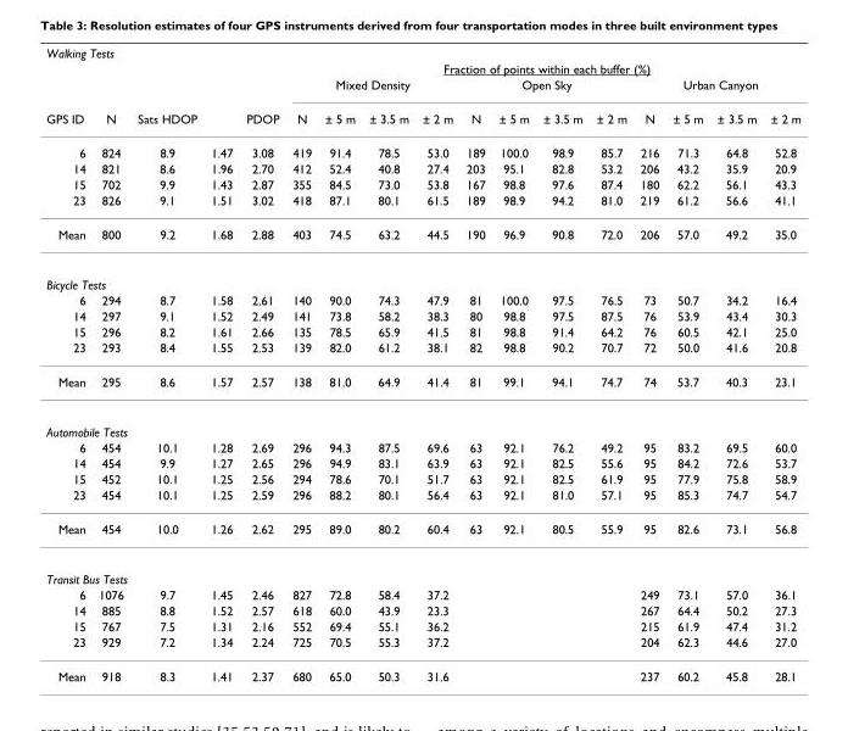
<table><thead><tr><td colspan="17">Walking Tests</td></tr><tr><td rowspan="3">GPS ID</td><td rowspan="3">N</td><td rowspan="3">Sats HDOP</td><td rowspan="3"></td><td rowspan="3">PDOP</td><td colspan="12">Fraction of points within each buffer (%)</td></tr><tr><td colspan="4">Mixed Density</td><td colspan="4">Open Sky</td><td colspan="4">Urban Canyon</td></tr><tr><td>N</td><td>± 5 m</td><td>± 3.5 m</td><td>± 2 m</td><td>N</td><td>± 5 m</td><td>± 3.5 m</td><td>± 2 m</td><td>N</td><td>± 5 m</td><td>± 3.5 m</td><td>± 2 m</td></tr></thead><tbody><tr><td>6</td><td>824</td><td>8.9</td><td>1.47</td><td>3.08</td><td>419</td><td>91.4</td><td>78.5</td><td>53.0</td><td>189</td><td>100.0</td><td>98.9</td><td>85.7</td><td>216</td><td>71.3</td><td>64.8</td><td>52.8</td></tr><tr><td>14</td><td>821</td><td>8.6</td><td>1.96</td><td>2.70</td><td>412</td><td>52.4</td><td>40.8</td><td>27.4</td><td>203</td><td>95.1</td><td>82.8</td><td>53.2</td><td>206</td><td>43.2</td><td>35.9</td><td>20.9</td></tr><tr><td>15</td><td>702</td><td>9.9</td><td>1.43</td><td>2.87</td><td>355</td><td>84.5</td><td>73.0</td><td>53.8</td><td>167</td><td>98.8</td><td>97.6</td><td>87.4</td><td>180</td><td>62.2</td><td>56.1</td><td>43.3</td></tr><tr><td>23</td><td>826</td><td>9.1</td><td>1.51</td><td>3.02</td><td>418</td><td>87.1</td><td>80.1</td><td>61.5</td><td>189</td><td>98.9</td><td>94.2</td><td>81.0</td><td>219</td><td>61.2</td><td>56.6</td><td>41.1</td></tr><tr><td>Mean</td><td>800</td><td>9.2</td><td>1.68</td><td>2.88</td><td>403</td><td>74.5</td><td>63.2</td><td>44.5</td><td>190</td><td>96.9</td><td>90.8</td><td>72.0</td><td>206</td><td>57.0</td><td>49.2</td><td>35.0</td></tr><tr><td colspan="17">Bicycle Tests</td></tr><tr><td>6</td><td>294</td><td>8.7</td><td>1.58</td><td>2.61</td><td>140</td><td>90.0</td><td>74.3</td><td>47.9</td><td>81</td><td>100.0</td><td>97.5</td><td>76.5</td><td>73</td><td>50.7</td><td>34.2</td><td>16.4</td></tr><tr><td>14</td><td>297</td><td>9.1</td><td>1.52</td><td>2.49</td><td>141</td><td>73.8</td><td>58.2</td><td>38.3</td><td>80</td><td>98.8</td><td>97.5</td><td>87.5</td><td>76</td><td>53.9</td><td>43.4</td><td>30.3</td></tr><tr><td>15</td><td>296</td><td>8.2</td><td>1.61</td><td>2.66</td><td>135</td><td>78.5</td><td>65.9</td><td>41.5</td><td>81</td><td>98.8</td><td>91.4</td><td>64.2</td><td>76</td><td>60.5</td><td>42.1</td><td>25.0</td></tr><tr><td>23</td><td>293</td><td>8.4</td><td>1.55</td><td>2.53</td><td>139</td><td>82.0</td><td>61.2</td><td>38.1</td><td>82</td><td>98.8</td><td>90.2</td><td>70.7</td><td>72</td><td>50.0</td><td>41.6</td><td>20.8</td></tr><tr><td>Mean</td><td>295</td><td>8.6</td><td>1.57</td><td>2.57</td><td>138</td><td>81.0</td><td>64.9</td><td>41.4</td><td>81</td><td>99.1</td><td>94.1</td><td>74.7</td><td>74</td><td>53.7</td><td>40.3</td><td>23.1</td></tr><tr><td colspan="17">Automobile Tests</td></tr><tr><td>6</td><td>454</td><td>10.1</td><td>1.28</td><td>2.69</td><td>296</td><td>94.3</td><td>87.5</td><td>69.6</td><td>63</td><td>92.1</td><td>76.2</td><td>49.2</td><td>95</td><td>83.2</td><td>69.5</td><td>60.0</td></tr><tr><td>14</td><td>454</td><td>9.9</td><td>1.27</td><td>2.65</td><td>296</td><td>94.9</td><td>83.1</td><td>63.9</td><td>63</td><td>92.1</td><td>82.5</td><td>55.6</td><td>95</td><td>84.2</td><td>72.6</td><td>53.7</td></tr><tr><td>15</td><td>452</td><td>10.1</td><td>1.25</td><td>2.56</td><td>294</td><td>78.6</td><td>70.1</td><td>51.7</td><td>63</td><td>92.1</td><td>82.5</td><td>61.9</td><td>95</td><td>77.9</td><td>75.8</td><td>58.9</td></tr><tr><td>23</td><td>454</td><td>10.1</td><td>1.25</td><td>2.59</td><td>296</td><td>88.2</td><td>80.1</td><td>56.4</td><td>63</td><td>92.1</td><td>81.0</td><td>57.1</td><td>95</td><td>85.3</td><td>74.7</td><td>54.7</td></tr><tr><td>Mean</td><td>454</td><td>10.0</td><td>1.26</td><td>2.62</td><td>295</td><td>89.0</td><td>80.2</td><td>60.4</td><td>63</td><td>92.1</td><td>80.5</td><td>55.9</td><td>95</td><td>82.6</td><td>73.1</td><td>56.8</td></tr><tr><td colspan="17">Transit Bus Tests</td></tr><tr><td>6</td><td>1076</td><td>9.7</td><td>1.45</td><td>2.46</td><td>827</td><td>72.8</td><td>58.4</td><td>37.2</td><td></td><td></td><td></td><td></td><td>249</td><td>73.1</td><td>57.0</td><td>36.1</td></tr><tr><td>14</td><td>885</td><td>8.8</td><td>1.52</td><td>2.57</td><td>618</td><td>60.0</td><td>43.9</td><td>23.3</td><td></td><td></td><td></td><td></td><td>267</td><td>64.4</td><td>50.2</td><td>27.3</td></tr><tr><td>15</td><td>767</td><td>7.5</td><td>1.31</td><td>2.16</td><td>552</td><td>69.4</td><td>55.1</td><td>36.2</td><td></td><td></td><td></td><td></td><td>215</td><td>61.9</td><td>47.4</td><td>31.2</td></tr><tr><td>23</td><td>929</td><td>7.2</td><td>1.34</td><td>2.24</td><td>725</td><td>70.5</td><td>55.3</td><td>37.2</td><td></td><td></td><td></td><td></td><td>204</td><td>62.3</td><td>44.6</td><td>27.0</td></tr><tr><td>Mean</td><td>918</td><td>8.3</td><td>1.41</td><td>2.37</td><td>680</td><td>65.0</td><td>50.3</td><td>31.6</td><td></td><td></td><td></td><td></td><td>237</td><td>60.2</td><td>45.8</td><td>28.1</td></tr></tbody></table>